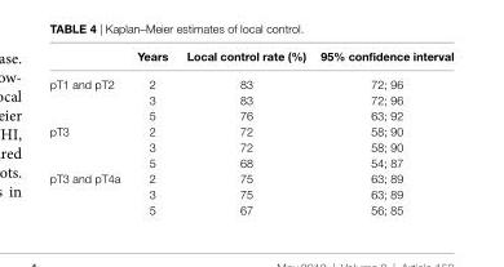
<table><thead><tr><td></td><td>Years</td><td>local control rate (%)</td><td>95% confidence interval</td></tr></thead><tbody><tr><td rowspan="3">pT1 and pT2</td><td>2</td><td>83</td><td>72; 96</td></tr><tr><td>3</td><td>83</td><td>72; 96</td></tr><tr><td>5</td><td>76</td><td>63; 92</td></tr><tr><td rowspan="3">pT3</td><td>2</td><td>72</td><td>58; 90</td></tr><tr><td>3</td><td>72</td><td>58; 90</td></tr><tr><td>5</td><td>68</td><td>54; 87</td></tr><tr><td rowspan="3">pT3 and pT4a</td><td>2</td><td>75</td><td>63; 89</td></tr><tr><td>3</td><td>75</td><td>63; 89</td></tr><tr><td>5</td><td>67</td><td>56; 85</td></tr></tbody></table>